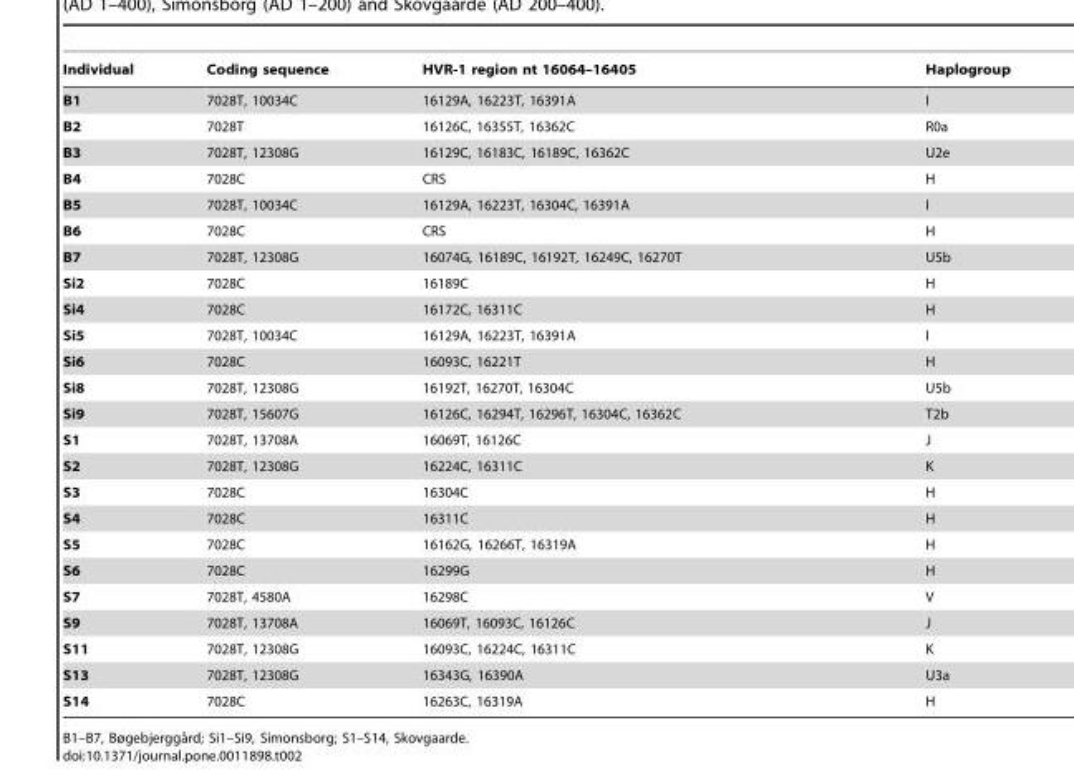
<table><thead><tr><td>Individual</td><td>Coding sequence</td><td>HVR-1 region nt 16064–16405</td><td>Haplogroup</td></tr></thead><tbody><tr><td>B1</td><td>7028T, 10034C</td><td>16129A, 16223T, 16391A</td><td>I</td></tr><tr><td>B2</td><td>7028T</td><td>16126C, 16355T, 16362C</td><td>R0a</td></tr><tr><td>B3</td><td>7028T, 12308G</td><td>16129C, 16183C, 16189C, 16362C</td><td>U2e</td></tr><tr><td>B4</td><td>7028C</td><td>CRS</td><td>H</td></tr><tr><td>B5</td><td>7028T, 10034C</td><td>16129A, 16223T, 16304C, 16391A</td><td>I</td></tr><tr><td>B6</td><td>7028C</td><td>CRS</td><td>H</td></tr><tr><td>B7</td><td>7028T, 12308G</td><td>16074G, 16189C, 16192T, 16249C, 16270T</td><td>U5b</td></tr><tr><td>Si2</td><td>7028C</td><td>16189C</td><td>H</td></tr><tr><td>Si4</td><td>7028C</td><td>16172C, 16311C</td><td>H</td></tr><tr><td>Si5</td><td>7028T, 10034C</td><td>16129A, 16223T, 16391A</td><td>I</td></tr><tr><td>Si6</td><td>7028C</td><td>16093C, 16221T</td><td>H</td></tr><tr><td>Si8</td><td>7028T, 12308G</td><td>16192T, 16270T, 16304C</td><td>U5b</td></tr><tr><td>Si9</td><td>7028T, 15607G</td><td>16126C, 16294T, 16296T, 16304C, 16362C</td><td>T2b</td></tr><tr><td>S1</td><td>7028T, 13708A</td><td>16069T, 16126C</td><td>J</td></tr><tr><td>S2</td><td>7028T, 12308G</td><td>16224C, 16311C</td><td>K</td></tr><tr><td>S3</td><td>7028C</td><td>16304C</td><td>H</td></tr><tr><td>S4</td><td>7028C</td><td>16311C</td><td>H</td></tr><tr><td>S5</td><td>7028C</td><td>16162G, 16266T, 16319A</td><td>H</td></tr><tr><td>S6</td><td>7028C</td><td>16299G</td><td>H</td></tr><tr><td>S7</td><td>7028T, 4580A</td><td>16298C</td><td>V</td></tr><tr><td>S9</td><td>7028T, 13708A</td><td>16069T, 16093C, 16126C</td><td>J</td></tr><tr><td>S11</td><td>7028T, 12308G</td><td>16093C, 16224C, 16311C</td><td>K</td></tr><tr><td>S13</td><td>7028T, 12308G</td><td>16343G, 16390A</td><td>U3a</td></tr><tr><td>S14</td><td>7028C</td><td>16263C, 16319A</td><td>H</td></tr></tbody></table>